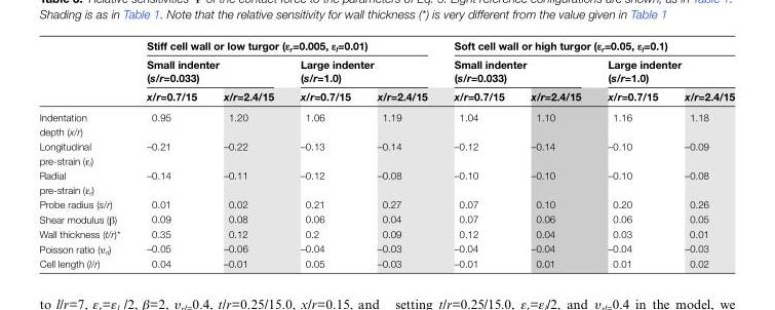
<table><thead><tr><td rowspan="3"></td><td colspan="4">Stiff cell wall or low turgor (ε<sub>r</sub>=0.005, ε<sub>l</sub>=0.01)</td><td colspan="4">Soft cell wall or high turgor (ε<sub>r</sub>=0.05, ε<sub>l</sub>=0.1)</td></tr><tr><td colspan="2">Small indenter (s/r=0.033)</td><td colspan="2">Large indenter (s/r=1.0)</td><td colspan="2">Small indenter (s/r=0.033)</td><td colspan="2">Large indenter (s/r=1.0)</td></tr><tr><td>x/r=0.7/15</td><td>x/r=2.4/15</td><td>x/r=0.7/15</td><td>x/r=2.4/15</td><td>x/r=0.7/15</td><td>x/r=2.4/15</td><td>x/r=0.7/15</td><td>x/r=2.4/15</td></tr></thead><tbody><tr><td>Indentation depth (x/r)</td><td>0.95</td><td>1.20</td><td>1.06</td><td>1.19</td><td>1.04</td><td>1.10</td><td>1.16</td><td>1.18</td></tr><tr><td>Longitudinal pre-strain (ε<sub>l</sub>)</td><td>–0.21</td><td>–0.22</td><td>–0.13</td><td>–0.14</td><td>–0.12</td><td>–0.14</td><td>–0.10</td><td>–0.09</td></tr><tr><td>Radial pre-strain (ε<sub>r</sub>)</td><td>–0.14</td><td>–0.11</td><td>–0.12</td><td>–0.08</td><td>–0.10</td><td>–0.10</td><td>–0.10</td><td>–0.08</td></tr><tr><td>Probe radius (s/r)</td><td>0.01</td><td>0.02</td><td>0.21</td><td>0.27</td><td>0.07</td><td>0.10</td><td>0.20</td><td>0.26</td></tr><tr><td>Shear modulus (β)</td><td>0.09</td><td>0.08</td><td>0.06</td><td>0.04</td><td>0.07</td><td>0.06</td><td>0.06</td><td>0.05</td></tr><tr><td>Wall thickness (t/r)*</td><td>0.35</td><td>0.12</td><td>0.2</td><td>0.09</td><td>0.12</td><td>0.04</td><td>0.03</td><td>0.01</td></tr><tr><td>Poisson ratio (υ<sub>rl</sub>)</td><td>–0.05</td><td>–0.06</td><td>–0.04</td><td>–0.03</td><td>–0.04</td><td>–0.04</td><td>–0.04</td><td>–0.03</td></tr><tr><td>Cell length (l/r)</td><td>0.04</td><td>–0.01</td><td>0.05</td><td>–0.03</td><td>–0.01</td><td>0.01</td><td>0.01</td><td>0.02</td></tr></tbody></table>